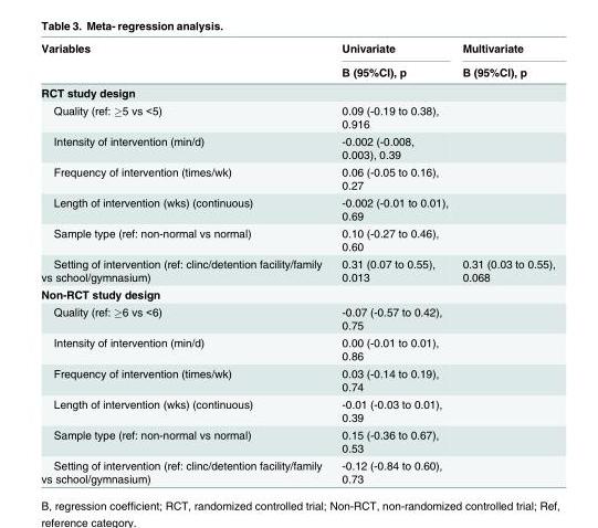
<table><thead><tr><td rowspan="2">Variables</td><td rowspan="2">Univariate Β (95%CI), p</td><td rowspan="2">Multivariate Β (95%CI), p</td></tr><tr></tr></thead><tbody><tr><td colspan="3">RCT study design</td></tr><tr><td>Quality (ref: ≥5 vs &lt;5)</td><td>0.09 (-0.19 to 0.38), 0.916</td><td></td></tr><tr><td>Intensity of intervention (min/d)</td><td>-0.002 (-0.008, 0.003), 0.39</td><td></td></tr><tr><td>Frequency of intervention (times/wk)</td><td>0.06 (-0.05 to 0.16), 0.27</td><td></td></tr><tr><td>Length of intervention (wks) (continuous)</td><td>-0.002 (-0.01 to 0.01), 0.69</td><td></td></tr><tr><td>Sample type (ref: non-normal vs normal)</td><td>0.10 (-0.27 to 0.46), 0.60</td><td></td></tr><tr><td>Setting of intervention (ref: clinc/detention facility/family vs school/gymnasium)</td><td>0.31 (0.07 to 0.55), 0.013</td><td>0.31 (0.03 to 0.55), 0.068</td></tr><tr><td colspan="3">Non-RCT study design</td></tr><tr><td>Quality (ref: ≥6 vs &lt;6)</td><td>-0.07 (-0.57 to 0.42), 0.75</td><td></td></tr><tr><td>Intensity of intervention (min/d)</td><td>0.00 (-0.01 to 0.01), 0.86</td><td></td></tr><tr><td>Frequency of intervention (times/wk)</td><td>0.03 (-0.14 to 0.19), 0.74</td><td></td></tr><tr><td>Length of intervention (wks) (continuous)</td><td>-0.01 (-0.03 to 0.01), 0.39</td><td></td></tr><tr><td>Sample type (ref: non-normal vs normal)</td><td>0.15 (-0.36 to 0.67), 0.53</td><td></td></tr><tr><td>Setting of intervention (ref: clinc/detention facility/family vs school/gymnasium)</td><td>-0.12 (-0.84 to 0.60), 0.73</td><td></td></tr></tbody></table>